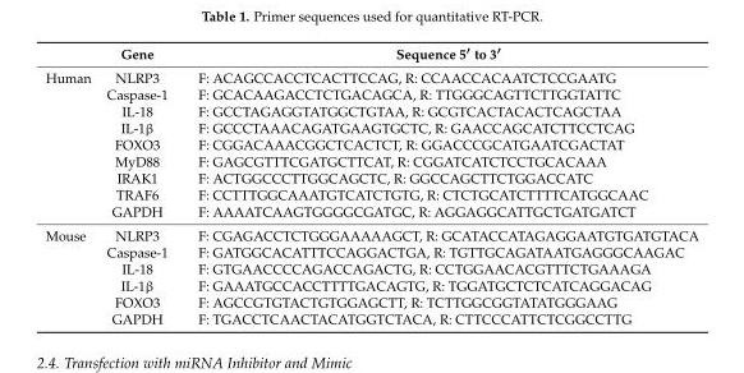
<table><thead><tr><td></td><td>Gene</td><td>Sequence 5′ to 3′</td></tr></thead><tbody><tr><td rowspan="9">Human</td><td>NLRP3</td><td>F: ACAGCCACCTCACTTCCAG, R: CCAACCACAATCTCCGAATG</td></tr><tr><td>Caspase-1</td><td>F: GCACAAGACCTCTGACAGCA, R: TTGGGCAGTTCTTGGTATTC</td></tr><tr><td>IL-18</td><td>F: GCCTAGAGGTATGGCTGTAA, R: GCGTCACTACACTCAGCTAA</td></tr><tr><td>IL-1β</td><td>F: GCCCTAAACAGATGAAGTGCTC, R: GAACCAGCATCTTCCTCAG</td></tr><tr><td>FOXO3</td><td>F: CGGACAAACGGCTCACTCT, R: GGACCCGCATGAATCGACTAT</td></tr><tr><td>MyD88</td><td>F: GAGCGTTTCGATGCTTCAT, R: CGGATCATCTCCTGCACAAA</td></tr><tr><td>IRAK1</td><td>F: ACTGGCCCTTGGCAGCTC, R: GGCCAGCTTCTGGACCATC</td></tr><tr><td>TRAF6</td><td>F: CCTTTGGCAAATGTCATCTGTG, R: CTCTGCATCTTTTCATGGCAAC</td></tr><tr><td>GAPDH</td><td>F: AAAATCAAGTGGGGCGATGC, R: AGGAGGCATTGCTGATGATCT</td></tr><tr><td rowspan="6">Mouse</td><td>NLRP3</td><td>F: CGAGACCTCTGGGAAAAAGCT, R: GCATACCATAGAGGAATGTGATGTACA</td></tr><tr><td>Caspase-1</td><td>F: GATGGCACATTTCCAGGACTGA, R: TGTTGCAGATAATGAGGGCAAGAC</td></tr><tr><td>IL-18</td><td>F: GTGAACCCCAGACCAGACTG, R: CCTGGAACACGTTTCTGAAAGA</td></tr><tr><td>IL-1β</td><td>F: GAAATGCCACCTTTTGACAGTG, R: TGGATGCTCTCATCAGGACAG</td></tr><tr><td>FOXO3</td><td>F: AGCCGTGTACTGTGGAGCTT, R: TCTTGGCGGTATATGGGAAG</td></tr><tr><td>GAPDH</td><td>F: TGACCTCAACTACATGGTCTACA, R: CTTCCCATTCTCGGCCTTG</td></tr></tbody></table>